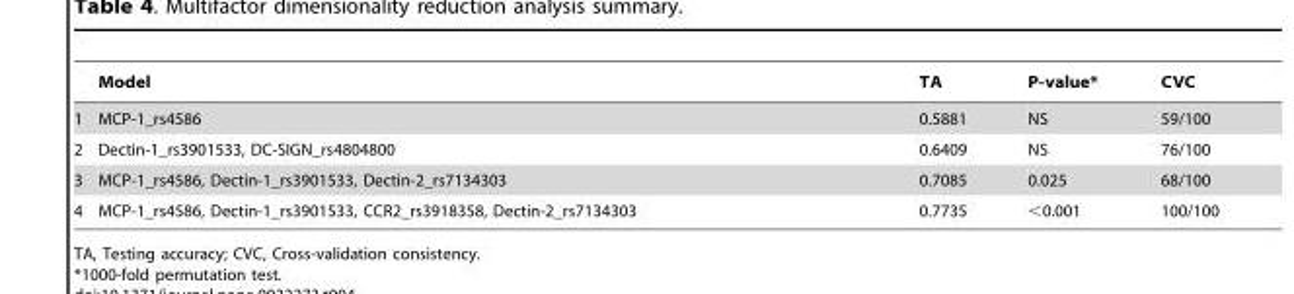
<table><thead><tr><td></td><td>Model</td><td>TA</td><td>P-value*</td><td>CVC</td></tr></thead><tbody><tr><td>1</td><td>MCP-1_rs4586</td><td>0.5881</td><td>NS</td><td>59/100</td></tr><tr><td>2</td><td>Dectin-1_rs3901533, DC-SIGN_rs4804800</td><td>0.6409</td><td>NS</td><td>76/100</td></tr><tr><td>3</td><td>MCP-1_rs4586, Dectin-1_rs3901533, Dectin-2_rs7134303</td><td>0.7085</td><td>0.025</td><td>68/100</td></tr><tr><td>4</td><td>MCP-1_rs4586, Dectin-1_rs3901533, CCR2_rs3918358, Dectin-2_rs7134303</td><td>0.7735</td><td>&lt;0.001</td><td>100/100</td></tr></tbody></table>